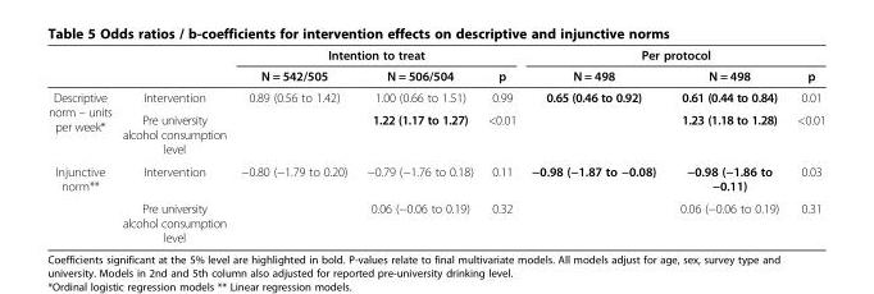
<table><thead><tr><td rowspan="2"></td><td rowspan="2"></td><td colspan="3">Intention to treat</td><td colspan="3">Per protocol</td></tr><tr><td>N = 542/505</td><td>N = 506/504</td><td>p</td><td>N = 498</td><td>N = 498</td><td>p</td></tr></thead><tbody><tr><td rowspan="2">Descriptive norm – units per week*</td><td>Intervention</td><td>0.89 (0.56 to 1.42)</td><td>1.00 (0.66 to 1.51)</td><td>0.99</td><td>0.65 (0.46 to 0.92)</td><td>0.61 (0.44 to 0.84)</td><td>0.01</td></tr><tr><td>Pre university alcohol consumption level</td><td></td><td>1.22 (1.17 to 1.27)</td><td>&lt;0.01</td><td></td><td>1.23 (1.18 to 1.28)</td><td>&lt;0.01</td></tr><tr><td rowspan="2">Injunctive norm**</td><td>Intervention</td><td>−0.80 (−1.79 to 0.20)</td><td>−0.79 (−1.76 to 0.18)</td><td>0.11</td><td>−0.98 (−1.87 to −0.08)</td><td>−0.98 (−1.86 to −0.11)</td><td>0.03</td></tr><tr><td>Pre university alcohol consumption level</td><td></td><td>0.06 (−0.06 to 0.19)</td><td>0.32</td><td></td><td>0.06 (−0.06 to 0.19)</td><td>0.31</td></tr></tbody></table>